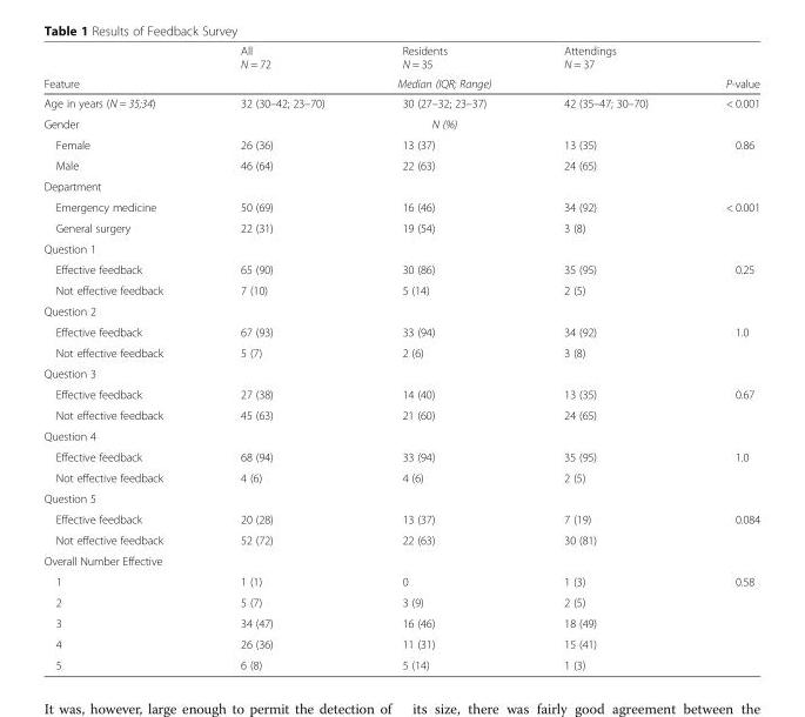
<table><thead><tr><td rowspan="2">Feature</td><td>All N = 72</td><td>Residents N = 35</td><td>Attendings N = 37</td><td rowspan="2">P-value</td></tr><tr><td colspan="3">Median (IQR; Range)</td></tr></thead><tbody><tr><td>Age in years (N = 35;34)</td><td>32 (30–42; 23–70)</td><td>30 (27–32; 23–37)</td><td>42 (35–47; 30–70)</td><td>&lt; 0.001</td></tr><tr><td>Gender</td><td colspan="3">N (%)</td><td></td></tr><tr><td>Female</td><td>26 (36)</td><td>13 (37)</td><td>13 (35)</td><td>0.86</td></tr><tr><td>Male</td><td>46 (64)</td><td>22 (63)</td><td>24 (65)</td><td></td></tr><tr><td colspan="5">Department</td></tr><tr><td>Emergency medicine</td><td>50 (69)</td><td>16 (46)</td><td>34 (92)</td><td>&lt; 0.001</td></tr><tr><td>General surgery</td><td>22 (31)</td><td>19 (54)</td><td>3 (8)</td><td></td></tr><tr><td colspan="5">Question 1</td></tr><tr><td>Effective feedback</td><td>65 (90)</td><td>30 (86)</td><td>35 (95)</td><td>0.25</td></tr><tr><td>Not effective feedback</td><td>7 (10)</td><td>5 (14)</td><td>2 (5)</td><td></td></tr><tr><td colspan="5">Question 2</td></tr><tr><td>Effective feedback</td><td>67 (93)</td><td>33 (94)</td><td>34 (92)</td><td>1.0</td></tr><tr><td>Not effective feedback</td><td>5 (7)</td><td>2 (6)</td><td>3 (8)</td><td></td></tr><tr><td colspan="5">Question 3</td></tr><tr><td>Effective feedback</td><td>27 (38)</td><td>14 (40)</td><td>13 (35)</td><td>0.67</td></tr><tr><td>Not effective feedback</td><td>45 (63)</td><td>21 (60)</td><td>24 (65)</td><td></td></tr><tr><td colspan="5">Question 4</td></tr><tr><td>Effective feedback</td><td>68 (94)</td><td>33 (94)</td><td>35 (95)</td><td>1.0</td></tr><tr><td>Not effective feedback</td><td>4 (6)</td><td>4 (6)</td><td>2 (5)</td><td></td></tr><tr><td colspan="5">Question 5</td></tr><tr><td>Effective feedback</td><td>20 (28)</td><td>13 (37)</td><td>7 (19)</td><td>0.084</td></tr><tr><td>Not effective feedback</td><td>52 (72)</td><td>22 (63)</td><td>30 (81)</td><td></td></tr><tr><td colspan="5">Overall Number Effective</td></tr><tr><td>1</td><td>1 (1)</td><td>0</td><td>1 (3)</td><td>0.58</td></tr><tr><td>2</td><td>5 (7)</td><td>3 (9)</td><td>2 (5)</td><td></td></tr><tr><td>3</td><td>34 (47)</td><td>16 (46)</td><td>18 (49)</td><td></td></tr><tr><td>4</td><td>26 (36)</td><td>11 (31)</td><td>15 (41)</td><td></td></tr><tr><td>5</td><td>6 (8)</td><td>5 (14)</td><td>1 (3)</td><td></td></tr></tbody></table>